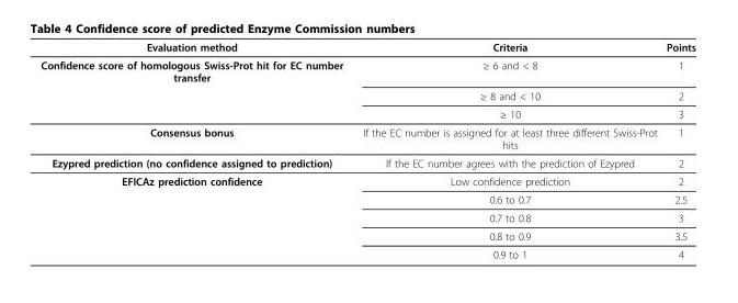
<table><thead><tr><td>Evaluation method</td><td>Criteria</td><td>Points</td></tr></thead><tbody><tr><td rowspan="3">Confidence score of homologous Swiss-Prot hit for EC number transfer</td><td>≥ 6 and &lt; 8</td><td>1</td></tr><tr><td>≥ 8 and &lt; 10</td><td>2</td></tr><tr><td>≥ 10</td><td>3</td></tr><tr><td>Consensus bonus</td><td>If the EC number is assigned for at least three different Swiss-Prot hits</td><td>1</td></tr><tr><td>Ezypred prediction (no confidence assigned to prediction)</td><td>If the EC number agrees with the prediction of Ezypred</td><td>2</td></tr><tr><td rowspan="5">EFICAz prediction confidence</td><td>Low confidence prediction</td><td>2</td></tr><tr><td>0.6 to 0.7</td><td>2.5</td></tr><tr><td>0.7 to 0.8</td><td>3</td></tr><tr><td>0.8 to 0.9</td><td>3.5</td></tr><tr><td>0.9 to 1</td><td>4</td></tr></tbody></table>